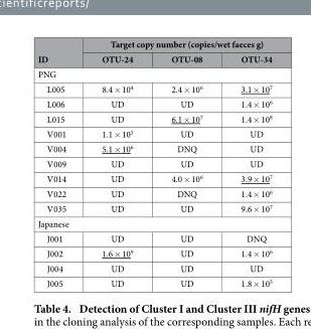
<table><thead><tr><td rowspan="2">ID</td><td colspan="3">Target copy number (copies/wet faeces g)</td></tr><tr><td>OTU-24</td><td>OTU-08</td><td>OTU-34</td></tr></thead><tbody><tr><td colspan="4">PNG</td></tr><tr><td>L005</td><td>8.4 × 10<sup>4</sup></td><td>2.4 × 10<sup>6</sup></td><td>3.1 × 10<sup>7</sup></td></tr><tr><td>L006</td><td>UD</td><td>UD</td><td>1.4 × 10<sup>6</sup></td></tr><tr><td>L015</td><td>UD</td><td>6.1 × 10<sup>7</sup></td><td>1.4 × 10<sup>8</sup></td></tr><tr><td>V001</td><td>1.1 × 10<sup>5</sup></td><td>UD</td><td>UD</td></tr><tr><td>V004</td><td>5.1 × 10<sup>6</sup></td><td>DNQ</td><td>UD</td></tr><tr><td>V009</td><td>UD</td><td>UD</td><td>UD</td></tr><tr><td>V014</td><td>UD</td><td>4.0 × 10<sup>6</sup></td><td>3.9 × 10<sup>7</sup></td></tr><tr><td>V022</td><td>UD</td><td>DNQ</td><td>1.4 × 10<sup>6</sup></td></tr><tr><td>V035</td><td>UD</td><td>UD</td><td>9.6 × 10<sup>7</sup></td></tr><tr><td colspan="4">Japanese</td></tr><tr><td>J001</td><td>UD</td><td>UD</td><td>DNQ</td></tr><tr><td>J002</td><td>1.6 × 10<sup>9</sup></td><td>UD</td><td>1.4 × 10<sup>6</sup></td></tr><tr><td>J004</td><td>UD</td><td>UD</td><td>UD</td></tr><tr><td>J005</td><td>UD</td><td>UD</td><td>1.8 × 10<sup>5</sup></td></tr></tbody></table>